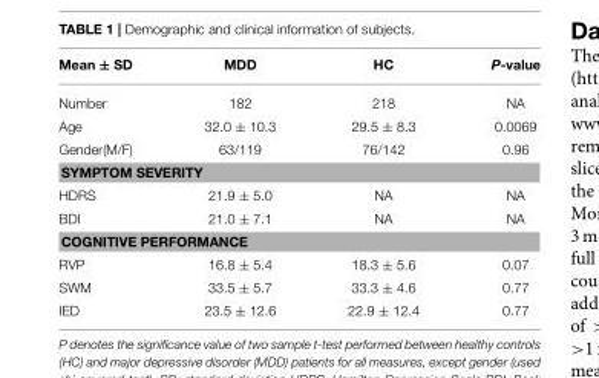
<table><thead><tr><td>Mean ± SD</td><td>MDD</td><td>HC</td><td>P-value</td></tr></thead><tbody><tr><td>Number</td><td>182</td><td>218</td><td>NA</td></tr><tr><td>Age</td><td>32.0 ± 10.3</td><td>29.5 ± 8.3</td><td>0.0069</td></tr><tr><td>Gender(M/F)</td><td>63/119</td><td>76/142</td><td>0.96</td></tr><tr><td colspan="4">SYMPTOM SEVERITY</td></tr><tr><td>HDRS</td><td>21.9 ± 5.0</td><td>NA</td><td>NA</td></tr><tr><td>BDI</td><td>21.0 ± 7.1</td><td>NA</td><td>NA</td></tr><tr><td colspan="4">COGNITIVE PERFORMANCE</td></tr><tr><td>RVP</td><td>16.8 ± 5.4</td><td>18.3 ± 5.6</td><td>0.07</td></tr><tr><td>SWM</td><td>33.5 ± 5.7</td><td>33.3 ± 4.6</td><td>0.77</td></tr><tr><td>IED</td><td>23.5 ± 12.6</td><td>22.9 ± 12.4</td><td>0.77</td></tr></tbody></table>